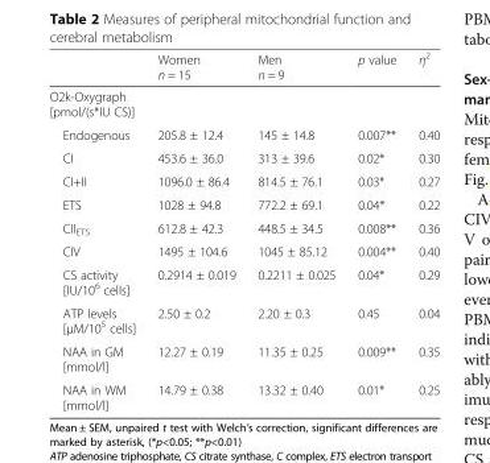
<table><thead><tr><td></td><td>Women n = 15</td><td>Men n = 9</td><td>p value</td><td>η<sup>2</sup></td></tr></thead><tbody><tr><td colspan="5">O2k-Oxygraph [pmol/(s*IU CS)]</td></tr><tr><td>Endogenous</td><td>205.8 ± 12.4</td><td>145 ± 14.8</td><td>0.007**</td><td>0.40</td></tr><tr><td>CI</td><td>453.6 ± 36.0</td><td>313 ± 39.6</td><td>0.02*</td><td>0.30</td></tr><tr><td>CI+II</td><td>1096.0 ± 86.4</td><td>814.5 ± 76.1</td><td>0.03*</td><td>0.27</td></tr><tr><td>ETS</td><td>1028 ± 94.8</td><td>772.2 ± 69.1</td><td>0.04*</td><td>0.22</td></tr><tr><td>CII<sub>ETS</sub></td><td>612.8 ± 42.3</td><td>448.5 ± 34.5</td><td>0.008**</td><td>0.36</td></tr><tr><td>CIV</td><td>1495 ± 104.6</td><td>1045 ± 85.12</td><td>0.004**</td><td>0.40</td></tr><tr><td>CS activity [IU/10<sup>6</sup> cells]</td><td>0.2914 ± 0.019</td><td>0.2211 ± 0.025</td><td>0.04*</td><td>0.29</td></tr><tr><td>ATP levels [μM/10<sup>5</sup> cells]</td><td>2.50 ± 0.2</td><td>2.20 ± 0.3</td><td>0.45</td><td>0.04</td></tr><tr><td>NAA in GM [mmol/l]</td><td>12.27 ± 0.19</td><td>11.35 ± 0.25</td><td>0.009**</td><td>0.35</td></tr><tr><td>NAA in WM [mmol/l]</td><td>14.79 ± 0.38</td><td>13.32 ± 0.40</td><td>0.01*</td><td>0.25</td></tr></tbody></table>